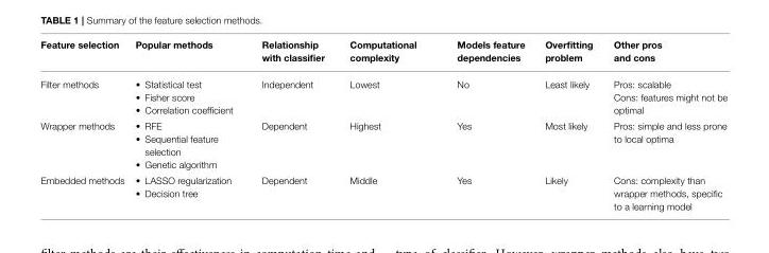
<table><thead><tr><td>Feature selection</td><td>Popular methods</td><td>Relationship with classifier</td><td>Computational complexity</td><td>Models feature dependencies</td><td>Overfitting problem</td><td>Other pros and cons</td></tr></thead><tbody><tr><td>Filter methods</td><td>• Statistical test • Fisher score • Correlation coefficient</td><td>Independent</td><td>Lowest</td><td>No</td><td>Least likely</td><td>Pros: scalable Cons: features might not be optimal</td></tr><tr><td>Wrapper methods</td><td>• RFE • Sequential feature selection • Genetic algorithm</td><td>Dependent</td><td>Highest</td><td>Yes</td><td>Most likely</td><td>Pros: simple and less prone to local optima</td></tr><tr><td>Embedded methods</td><td>• LASSO regularization • Decision tree</td><td>Dependent</td><td>Middle</td><td>Yes</td><td>Likely</td><td>Cons: complexity than wrapper methods, specific to a learning model</td></tr></tbody></table>